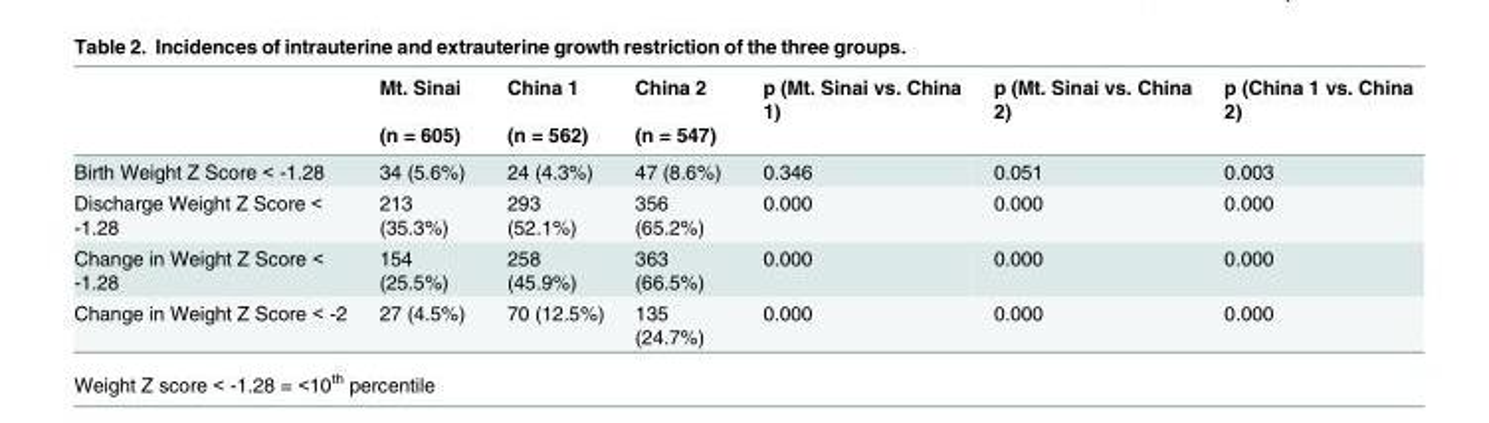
<table><thead><tr><td rowspan="2"></td><td rowspan="2">Mt. Sinai (n = 605)</td><td rowspan="2">China 1 (n = 562)</td><td rowspan="2">China 2 (n = 547)</td><td rowspan="2">p (Mt. Sinai vs. China 1)</td><td rowspan="2">p (Mt. Sinai vs. China 2)</td><td rowspan="2">p (China 1 vs. China 2)</td></tr><tr></tr></thead><tbody><tr><td>Birth Weight Z Score &lt; -1.28</td><td>34 (5.6%)</td><td>24 (4.3%)</td><td>47 (8.6%)</td><td>0.346</td><td>0.051</td><td>0.003</td></tr><tr><td>Discharge Weight Z Score &lt; -1.28</td><td>213 (35.3%)</td><td>293 (52.1%)</td><td>356 (65.2%)</td><td>0.000</td><td>0.000</td><td>0.000</td></tr><tr><td>Change in Weight Z Score &lt; -1.28</td><td>154 (25.5%)</td><td>258 (45.9%)</td><td>363 (66.5%)</td><td>0.000</td><td>0.000</td><td>0.000</td></tr><tr><td>Change in Weight Z Score &lt; -2</td><td>27 (4.5%)</td><td>70 (12.5%)</td><td>135 (24.7%)</td><td>0.000</td><td>0.000</td><td>0.000</td></tr></tbody></table>